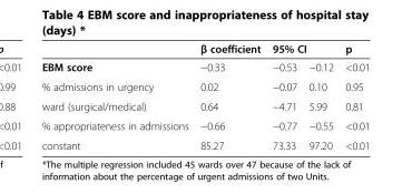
<table><thead><tr><td rowspan="2">EBM score</td><td rowspan="2">β coefficient −0.33</td><td colspan="2">95% CI</td><td rowspan="2">p &lt;0.01</td></tr><tr><td>−0.53</td><td>−0.12</td></tr></thead><tbody><tr><td>% admissions in urgency</td><td>0.02</td><td>−0.07</td><td>0.10</td><td>0.95</td></tr><tr><td>ward (surgical/medical)</td><td>0.64</td><td>−4.71</td><td>5.99</td><td>0.81</td></tr><tr><td>% appropriateness in admissions</td><td>−0.66</td><td>−0.77</td><td>−0.55</td><td>&lt;0.01</td></tr><tr><td>constant</td><td>85.27</td><td>73.33</td><td>97.20</td><td>&lt;0.01</td></tr></tbody></table>